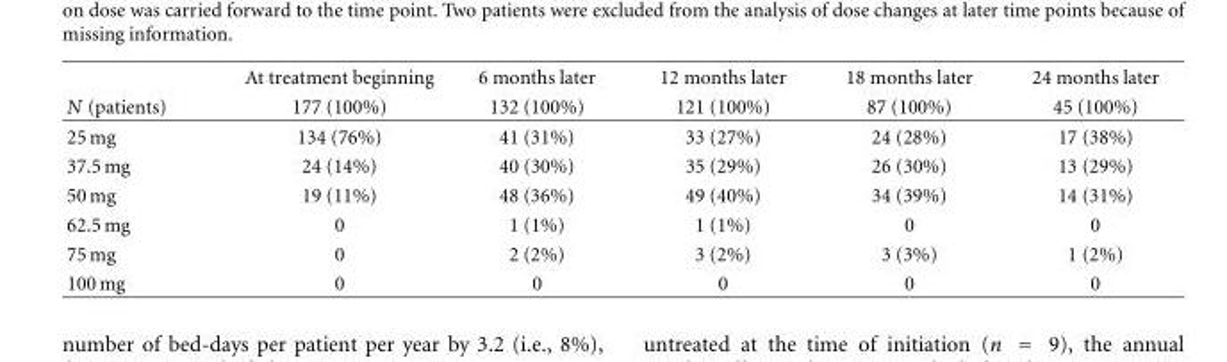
<table><thead><tr><td rowspan="2">N (patients)</td><td rowspan="2">At treatment beginning 177 (100%)</td><td rowspan="2">6 months later 132 (100%)</td><td rowspan="2">12 months later 121 (100%)</td><td rowspan="2">18 months later 87 (100%)</td><td rowspan="2">24 months later 45 (100%)</td></tr><tr></tr></thead><tbody><tr><td>25 mg</td><td>134 (76%)</td><td>41 (31%)</td><td>33 (27%)</td><td>24 (28%)</td><td>17 (38%)</td></tr><tr><td>37.5 mg</td><td>24 (14%)</td><td>40 (30%)</td><td>35 (29%)</td><td>26 (30%)</td><td>13 (29%)</td></tr><tr><td>50 mg</td><td>19 (11%)</td><td>48 (36%)</td><td>49 (40%)</td><td>34 (39%)</td><td>14 (31%)</td></tr><tr><td>62.5 mg</td><td>0</td><td>1 (1%)</td><td>1 (1%)</td><td>0</td><td>0</td></tr><tr><td>75 mg</td><td>0</td><td>2 (2%)</td><td>3 (2%)</td><td>3 (3%)</td><td>1 (2%)</td></tr><tr><td>100 mg</td><td>0</td><td>0</td><td>0</td><td>0</td><td>0</td></tr></tbody></table>